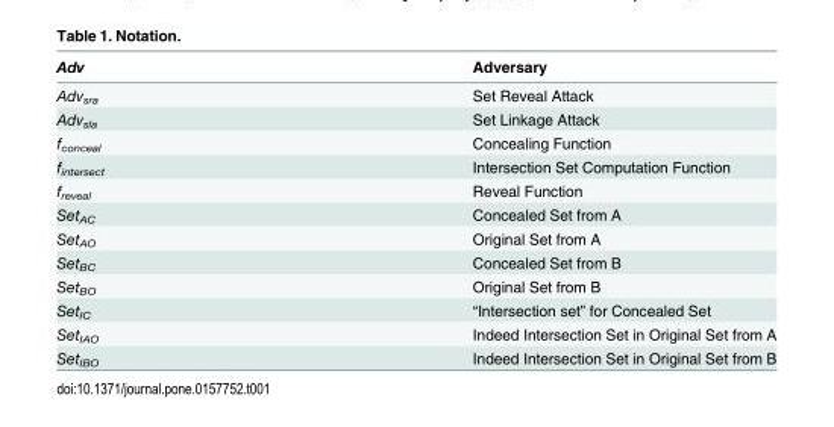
<table><thead><tr><td>Adv</td><td>Adversary</td></tr></thead><tbody><tr><td>Adv<sub>sra</sub></td><td>Set Reveal Attack</td></tr><tr><td>Adv<sub>sla</sub></td><td>Set Linkage Attack</td></tr><tr><td>f<sub>conceal</sub></td><td>Concealing Function</td></tr><tr><td>f<sub>intersect</sub></td><td>Intersection Set Computation Function</td></tr><tr><td>f<sub>reveal</sub></td><td>Reveal Function</td></tr><tr><td>Set<sub>AC</sub></td><td>Concealed Set from A</td></tr><tr><td>Set<sub>AO</sub></td><td>Original Set from A</td></tr><tr><td>Set<sub>BC</sub></td><td>Concealed Set from B</td></tr><tr><td>Set<sub>BO</sub></td><td>Original Set from B</td></tr><tr><td>Set<sub>IC</sub></td><td>“Intersection set” for Concealed Set</td></tr><tr><td>Set<sub>IAO</sub></td><td>Indeed Intersection Set in Original Set from A</td></tr><tr><td>Set<sub>IBO</sub></td><td>Indeed Intersection Set in Original Set from B</td></tr></tbody></table>